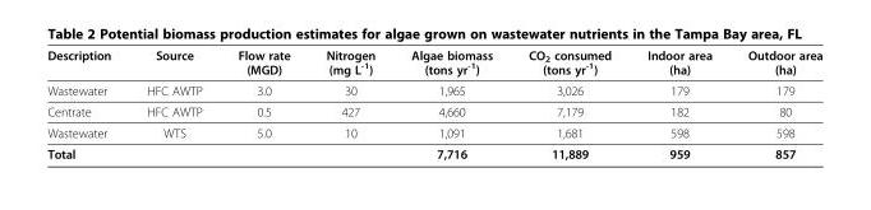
<table><thead><tr><td>Description</td><td>Source</td><td>Flow rate (MGD)</td><td>Nitrogen (mg L<sup>-1</sup>)</td><td>Algae biomass (tons yr<sup>-1</sup>)</td><td>CO<sub>2</sub> consumed (tons yr<sup>-1</sup>)</td><td>Indoor area (ha)</td><td>Outdoor area (ha)</td></tr></thead><tbody><tr><td>Wastewater</td><td>HFC AWTP</td><td>3.0</td><td>30</td><td>1,965</td><td>3,026</td><td>179</td><td>179</td></tr><tr><td>Centrate</td><td>HFC AWTP</td><td>0.5</td><td>427</td><td>4,660</td><td>7,179</td><td>182</td><td>80</td></tr><tr><td>Wastewater</td><td>WTS</td><td>5.0</td><td>10</td><td>1,091</td><td>1,681</td><td>598</td><td>598</td></tr><tr><td>Total</td><td></td><td></td><td></td><td>7,716</td><td>11,889</td><td>959</td><td>857</td></tr></tbody></table>